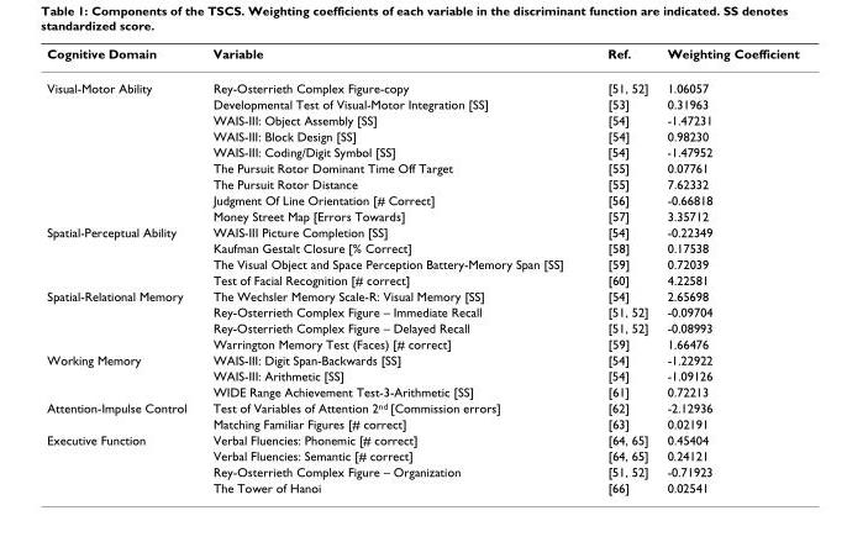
<table><thead><tr><td>Cognitive Domain</td><td>Variable</td><td>Ref.</td><td>Weighting Coefficient</td></tr></thead><tbody><tr><td rowspan="9">Visual-Motor Ability</td><td>Rey-Osterrieth Complex Figure-copy</td><td>[51, 52]</td><td>1.06057</td></tr><tr><td>Developmental Test of Visual-Motor Integration [SS]</td><td>[53]</td><td>0.31963</td></tr><tr><td>WAIS-III: Object Assembly [SS]</td><td>[54]</td><td>-1.47231</td></tr><tr><td>WAIS-III: Block Design [SS]</td><td>[54]</td><td>0.98230</td></tr><tr><td>WAIS-III: Coding/Digit Symbol [SS]</td><td>[54]</td><td>-1.47952</td></tr><tr><td>The Pursuit Rotor Dominant Time Off Target</td><td>[55]</td><td>0.07761</td></tr><tr><td>The Pursuit Rotor Distance</td><td>[55]</td><td>7.62332</td></tr><tr><td>Judgment Of Line Orientation [# Correct]</td><td>[56]</td><td>-0.66818</td></tr><tr><td>Money Street Map [Errors Towards]</td><td>[57]</td><td>3.35712</td></tr><tr><td rowspan="4">Spatial-Perceptual Ability</td><td>WAIS-III Picture Completion [SS]</td><td>[54]</td><td>-0.22349</td></tr><tr><td>Kaufman Gestalt Closure [% Correct]</td><td>[58]</td><td>0.17538</td></tr><tr><td>The Visual Object and Space Perception Battery-Memory Span [SS]</td><td>[59]</td><td>0.72039</td></tr><tr><td>Test of Facial Recognition [# correct]</td><td>[60]</td><td>4.22581</td></tr><tr><td rowspan="4">Spatial-Relational Memory</td><td>The Wechsler Memory Scale-R: Visual Memory [SS]</td><td>[54]</td><td>2.65698</td></tr><tr><td>Rey-Osterrieth Complex Figure – Immediate Recall</td><td>[51, 52]</td><td>-0.09704</td></tr><tr><td>Rey-Osterrieth Complex Figure – Delayed Recall</td><td>[51, 52]</td><td>-0.08993</td></tr><tr><td>Warrington Memory Test (Faces) [# correct]</td><td>[59]</td><td>1.66476</td></tr><tr><td rowspan="3">Working Memory</td><td>WAIS-III: Digit Span-Backwards [SS]</td><td>[54]</td><td>-1.22922</td></tr><tr><td>WAIS-III: Arithmetic [SS]</td><td>[54]</td><td>-1.09126</td></tr><tr><td>WIDE Range Achievement Test-3-Arithmetic [SS]</td><td>[61]</td><td>0.72213</td></tr><tr><td rowspan="2">Attention-Impulse Control</td><td>Test of Variables of Attention 2<sup>nd</sup> [Commission errors]</td><td>[62]</td><td>-2.12936</td></tr><tr><td>Matching Familiar Figures [# correct]</td><td>[63]</td><td>0.02191</td></tr><tr><td rowspan="4">Executive Function</td><td>Verbal Fluencies: Phonemic [# correct]</td><td>[64, 65]</td><td>0.45404</td></tr><tr><td>Verbal Fluencies: Semantic [# correct]</td><td>[64, 65]</td><td>0.24121</td></tr><tr><td>Rey-Osterrieth Complex Figure – Organization</td><td>[51, 52]</td><td>-0.71923</td></tr><tr><td>The Tower of Hanoi</td><td>[66]</td><td>0.02541</td></tr></tbody></table>